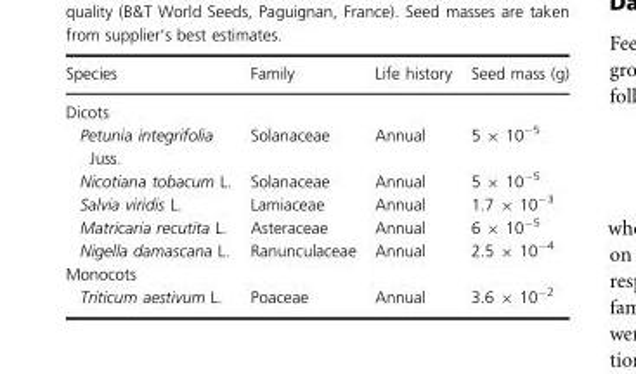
<table><thead><tr><td>Species</td><td>Family</td><td>Life history</td><td>Seed mass (g)</td></tr></thead><tbody><tr><td colspan="4">Dicots</td></tr><tr><td>Petunia integrifolia Juss.</td><td>Solanaceae</td><td>Annual</td><td>5 × 10<sup>−5</sup></td></tr><tr><td>Nicotiana tobacum L.</td><td>Solanaceae</td><td>Annual</td><td>5 × 10<sup>−5</sup></td></tr><tr><td>Salvia viridis L.</td><td>Lamiaceae</td><td>Annual</td><td>1.7 × 10<sup>−3</sup></td></tr><tr><td>Matricaria recutita L.</td><td>Asteraceae</td><td>Annual</td><td>6 × 10<sup>−5</sup></td></tr><tr><td>Nigella damascana L.</td><td>Ranunculaceae</td><td>Annual</td><td>2.5 × 10<sup>−4</sup></td></tr><tr><td colspan="4">Monocots</td></tr><tr><td>Triticum aestivum L.</td><td>Poaceae</td><td>Annual</td><td>3.6 × 10<sup>−2</sup></td></tr></tbody></table>